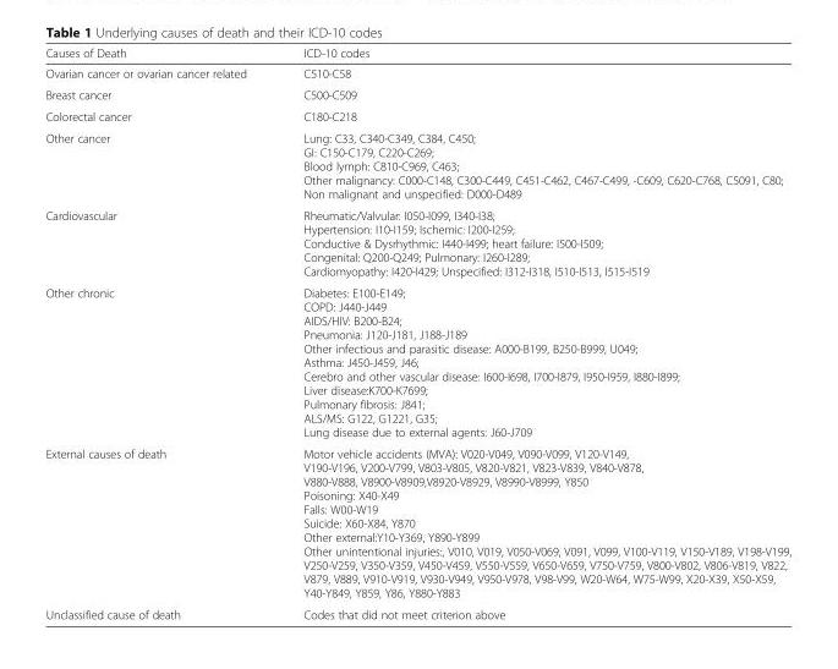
<table><thead><tr><td>Causes of Death</td><td>ICD-10 codes</td></tr></thead><tbody><tr><td>Ovarian cancer or ovarian cancer related</td><td>C510-C58</td></tr><tr><td>Breast cancer</td><td>C500-C509</td></tr><tr><td>Colorectal cancer</td><td>C180-C218</td></tr><tr><td>Other cancer</td><td>Lung: C33, C340-C349, C384, C450; GI: C150-C179, C220-C269; Blood lymph: C810-C969, C463; Other malignancy: C000-C148, C300-C449, C451-C462, C467-C499, -C609, C620-C768, C5091, C80; Non malignant and unspecified: D000-D489</td></tr><tr><td>Cardiovascular</td><td>Rheumatic/Valvular: I050-I099, I340-I38; Hypertension: I10-I159; Ischemic: I200-I259; Conductive &amp; Dysrhythmic: I440-I499; heart failure: I500-I509; Congenital: Q200-Q249; Pulmonary: I260-I289; Cardiomyopathy: I420-I429; Unspecified: I312-I318, I510-I513, I515-I519</td></tr><tr><td>Other chronic</td><td>Diabetes: E100-E149; COPD: J440-J449 AIDS/HIV: B200-B24; Pneumonia: J120-J181, J188-J189 Other infectious and parasitic disease: A000-B199, B250-B999, U049; Asthma: J450-J459, J46; Cerebro and other vascular disease: I600-I698, I700-I879, I950-I959, I880-I899; Liver disease:K700-K7699; Pulmonary fibrosis: J841; ALS/MS: G122, G1221, G35; Lung disease due to external agents: J60-J709</td></tr><tr><td>External causes of death</td><td>Motor vehicle accidents (MVA): V020-V049, V090-V099, V120-V149, V190-V196, V200-V799, V803-V805, V820-V821, V823-V839, V840-V878, V880-V888, V8900-V8909,V8920-V8929, V8990-V8999, Y850 Poisoning: X40-X49 Falls: W00-W19 Suicide: X60-X84, Y870 Other external:Y10-Y369, Y890-Y899 Other unintentional injuries:, V010, V019, V050-V069, V091, V099, V100-V119, V150-V189, V198-V199, V250-V259, V350-V359, V450-V459, V550-V559, V650-V659, V750-V759, V800-V802, V806-V819, V822, V879, V889, V910-V919, V930-V949, V950-V978, V98-V99, W20-W64, W75-W99, X20-X39, X50-X59, Y40-Y849, Y859, Y86, Y880-Y883</td></tr><tr><td>Unclassified cause of death</td><td>Codes that did not meet criterion above</td></tr></tbody></table>